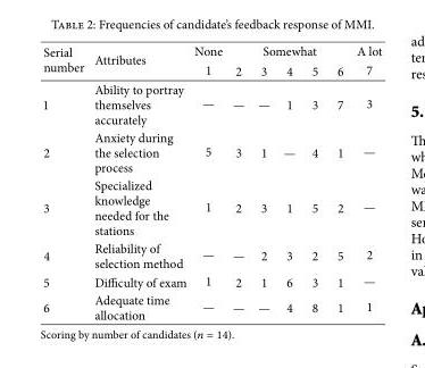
<table><thead><tr><td rowspan="2">Serial number</td><td rowspan="2">Attributes</td><td rowspan="2">None 1</td><td colspan="5">Somewhat</td><td rowspan="2">A lot 7</td></tr><tr><td>2</td><td>3</td><td>4</td><td>5</td><td>6</td></tr></thead><tbody><tr><td>1</td><td>Ability to portray themselves accurately</td><td>—</td><td>—</td><td>—</td><td>1</td><td>3</td><td>7</td><td>3</td></tr><tr><td>2</td><td>Anxiety during the selection process</td><td>5</td><td>3</td><td>1</td><td>—</td><td>4</td><td>1</td><td>—</td></tr><tr><td>3</td><td>Specialized knowledge needed for the stations</td><td>1</td><td>2</td><td>3</td><td>1</td><td>5</td><td>2</td><td>—</td></tr><tr><td>4</td><td>Reliability of selection method</td><td>—</td><td>—</td><td>2</td><td>3</td><td>2</td><td>5</td><td>2</td></tr><tr><td>5</td><td>Difficulty of exam</td><td>1</td><td>2</td><td>1</td><td>6</td><td>3</td><td>1</td><td>—</td></tr><tr><td>6</td><td>Adequate time allocation</td><td>—</td><td>—</td><td>—</td><td>4</td><td>8</td><td>1</td><td>1</td></tr></tbody></table>